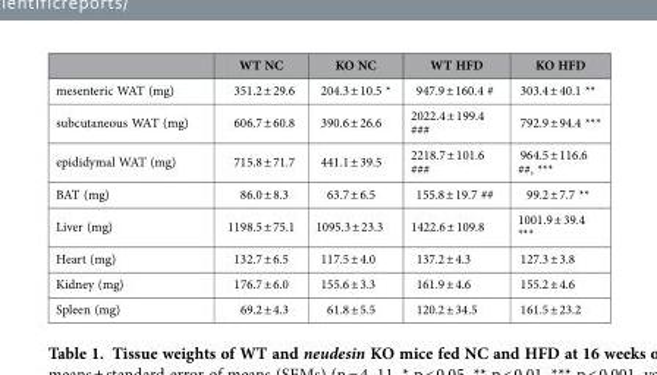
<table><thead><tr><td></td><td>WT NC</td><td>KO NC</td><td>WT HFD</td><td>KO HFD</td></tr></thead><tbody><tr><td>mesenteric WAT (mg)</td><td>351.2 ± 29.6</td><td>204.3 ± 10.5 *</td><td>947.9 ± 160.4 #</td><td>303.4 ± 40.1 **</td></tr><tr><td>subcutaneous WAT (mg)</td><td>606.7 ± 60.8</td><td>390.6 ± 26.6</td><td>2022.4 ± 199.4 ###</td><td>792.9 ± 94.4 ***</td></tr><tr><td>epididymal WAT (mg)</td><td>715.8 ± 71.7</td><td>441.1 ± 39.5</td><td>2218.7 ± 101.6 ###</td><td>964.5 ± 116.6 ##, ***</td></tr><tr><td>BAT (mg)</td><td>86.0 ± 8.3</td><td>63.7 ± 6.5</td><td>155.8 ± 19.7 ##</td><td>99.2 ± 7.7 **</td></tr><tr><td>Liver (mg)</td><td>1198.5 ± 75.1</td><td>1095.3 ± 23.3</td><td>1422.6 ± 109.8</td><td>1001.9 ± 39.4 ***</td></tr><tr><td>Heart (mg)</td><td>132.7 ± 6.5</td><td>117.5 ± 4.0</td><td>137.2 ± 4.3</td><td>127.3 ± 3.8</td></tr><tr><td>Kidney (mg)</td><td>176.7 ± 6.0</td><td>155.6 ± 3.3</td><td>161.9 ± 4.6</td><td>155.2 ± 4.6</td></tr><tr><td>Spleen (mg)</td><td>69.2 ± 4.3</td><td>61.8 ± 5.5</td><td>120.2 ± 34.5</td><td>161.5 ± 23.2</td></tr></tbody></table>